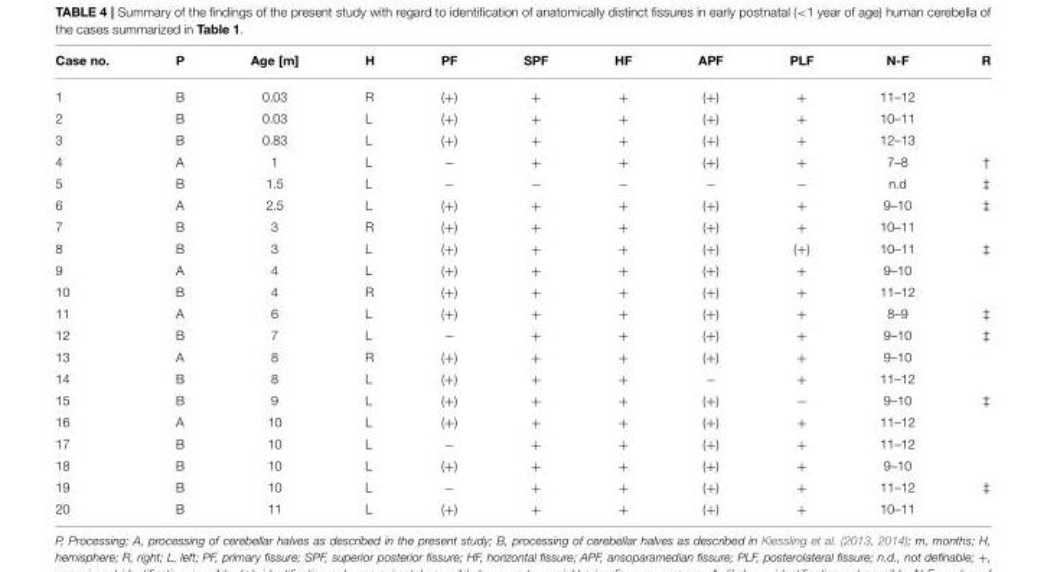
<table><thead><tr><td>Case no.</td><td>P</td><td>Age [m]</td><td>H</td><td>PF</td><td>SPF</td><td>HF</td><td>APF</td><td>PLF</td><td>N-F</td><td>R</td></tr></thead><tbody><tr><td>1</td><td>B</td><td>0.03</td><td>R</td><td>(+)</td><td>+</td><td>+</td><td>(+)</td><td>+</td><td>11–12</td><td></td></tr><tr><td>2</td><td>B</td><td>0.03</td><td>L</td><td>(+)</td><td>+</td><td>+</td><td>(+)</td><td>+</td><td>10–11</td><td></td></tr><tr><td>3</td><td>B</td><td>0.83</td><td>L</td><td>(+)</td><td>+</td><td>+</td><td>(+)</td><td>+</td><td>12–13</td><td></td></tr><tr><td>4</td><td>A</td><td>1</td><td>L</td><td>−</td><td>+</td><td>+</td><td>(+)</td><td>+</td><td>7–8</td><td>†</td></tr><tr><td>5</td><td>B</td><td>1.5</td><td>L</td><td>−</td><td>−</td><td>−</td><td>−</td><td>−</td><td>n.d</td><td>‡</td></tr><tr><td>6</td><td>A</td><td>2.5</td><td>L</td><td>(+)</td><td>+</td><td>+</td><td>(+)</td><td>+</td><td>9–10</td><td>‡</td></tr><tr><td>7</td><td>B</td><td>3</td><td>R</td><td>(+)</td><td>+</td><td>+</td><td>(+)</td><td>+</td><td>10–11</td><td></td></tr><tr><td>8</td><td>B</td><td>3</td><td>L</td><td>(+)</td><td>+</td><td>+</td><td>(+)</td><td>(+)</td><td>10–11</td><td>‡</td></tr><tr><td>9</td><td>A</td><td>4</td><td>L</td><td>(+)</td><td>+</td><td>+</td><td>(+)</td><td>+</td><td>9–10</td><td></td></tr><tr><td>10</td><td>B</td><td>4</td><td>R</td><td>(+)</td><td>+</td><td>+</td><td>(+)</td><td>+</td><td>11–12</td><td></td></tr><tr><td>11</td><td>A</td><td>6</td><td>L</td><td>(+)</td><td>+</td><td>+</td><td>(+)</td><td>+</td><td>8–9</td><td>‡</td></tr><tr><td>12</td><td>B</td><td>7</td><td>L</td><td>−</td><td>+</td><td>+</td><td>(+)</td><td>+</td><td>9–10</td><td>‡</td></tr><tr><td>13</td><td>A</td><td>8</td><td>R</td><td>(+)</td><td>+</td><td>+</td><td>(+)</td><td>+</td><td>9–10</td><td></td></tr><tr><td>14</td><td>B</td><td>8</td><td>L</td><td>(+)</td><td>+</td><td>+</td><td>−</td><td>+</td><td>11–12</td><td></td></tr><tr><td>15</td><td>B</td><td>9</td><td>L</td><td>(+)</td><td>+</td><td>+</td><td>(+)</td><td>−</td><td>9–10</td><td>‡</td></tr><tr><td>16</td><td>A</td><td>10</td><td>L</td><td>(+)</td><td>+</td><td>+</td><td>(+)</td><td>+</td><td>11–12</td><td></td></tr><tr><td>17</td><td>B</td><td>10</td><td>L</td><td>−</td><td>+</td><td>+</td><td>(+)</td><td>+</td><td>11–12</td><td></td></tr><tr><td>18</td><td>B</td><td>10</td><td>L</td><td>(+)</td><td>+</td><td>+</td><td>(+)</td><td>+</td><td>9–10</td><td></td></tr><tr><td>19</td><td>B</td><td>10</td><td>L</td><td>−</td><td>+</td><td>+</td><td>(+)</td><td>+</td><td>11–12</td><td>‡</td></tr><tr><td>20</td><td>B</td><td>11</td><td>L</td><td>(+)</td><td>+</td><td>+</td><td>(+)</td><td>+</td><td>10–11</td><td></td></tr></tbody></table>